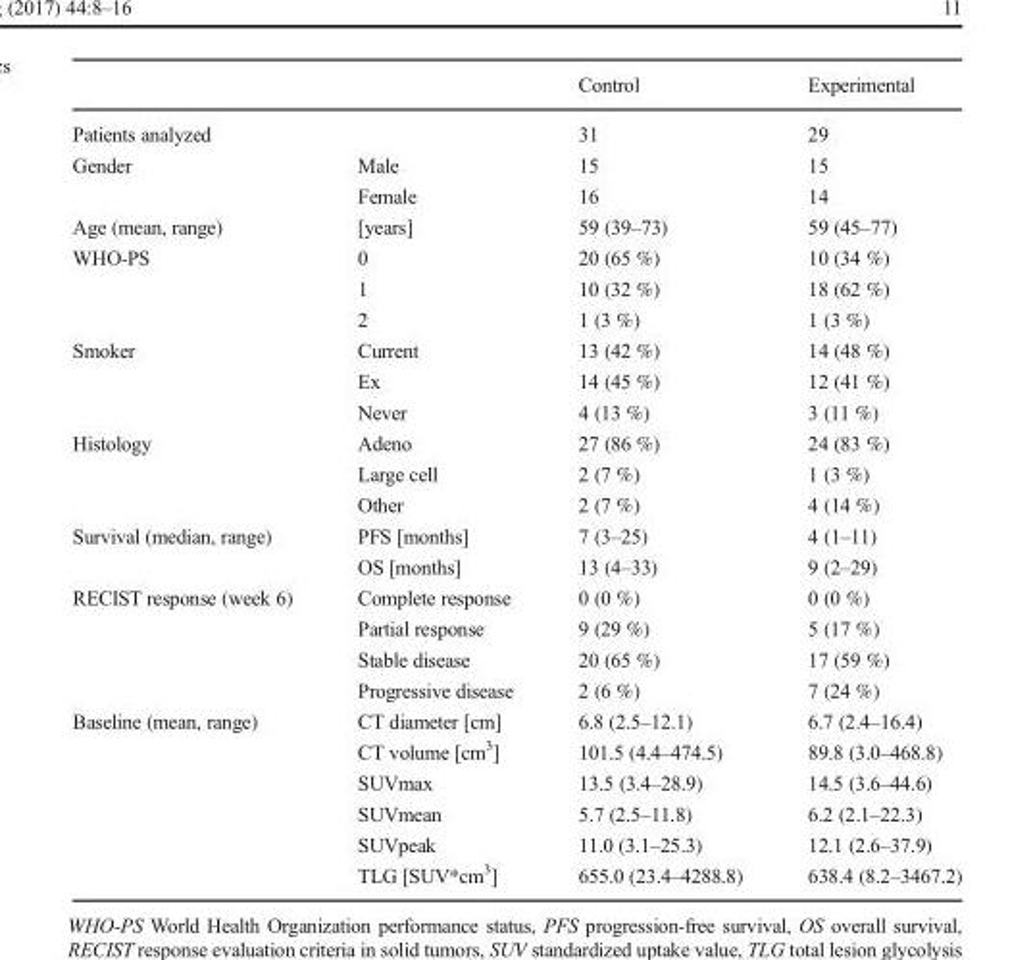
<table><thead><tr><td></td><td></td><td>Control</td><td>Experimental</td></tr></thead><tbody><tr><td>Patients analyzed</td><td></td><td>31</td><td>29</td></tr><tr><td rowspan="2">Gender</td><td>Male</td><td>15</td><td>15</td></tr><tr><td>Female</td><td>16</td><td>14</td></tr><tr><td>Age (mean, range)</td><td>[years]</td><td>59 (39–73)</td><td>59 (45–77)</td></tr><tr><td rowspan="3">WHO-PS</td><td>0</td><td>20 (65 %)</td><td>10 (34 %)</td></tr><tr><td>1</td><td>10 (32 %)</td><td>18 (62 %)</td></tr><tr><td>2</td><td>1 (3 %)</td><td>1 (3 %)</td></tr><tr><td rowspan="3">Smoker</td><td>Current</td><td>13 (42 %)</td><td>14 (48 %)</td></tr><tr><td>Ex</td><td>14 (45 %)</td><td>12 (41 %)</td></tr><tr><td>Never</td><td>4 (13 %)</td><td>3 (11 %)</td></tr><tr><td rowspan="3">Histology</td><td>Adeno</td><td>27 (86 %)</td><td>24 (83 %)</td></tr><tr><td>Large cell</td><td>2 (7 %)</td><td>1 (3 %)</td></tr><tr><td>Other</td><td>2 (7 %)</td><td>4 (14 %)</td></tr><tr><td rowspan="2">Survival (median, range)</td><td>PFS [months]</td><td>7 (3–25)</td><td>4 (1–11)</td></tr><tr><td>OS [months]</td><td>13 (4–33)</td><td>9 (2–29)</td></tr><tr><td rowspan="4">RECIST response (week 6)</td><td>Complete response</td><td>0 (0 %)</td><td>0 (0 %)</td></tr><tr><td>Partial response</td><td>9 (29 %)</td><td>5 (17 %)</td></tr><tr><td>Stable disease</td><td>20 (65 %)</td><td>17 (59 %)</td></tr><tr><td>Progressive disease</td><td>2 (6 %)</td><td>7 (24 %)</td></tr><tr><td rowspan="6">Baseline (mean, range)</td><td>CT diameter [cm]</td><td>6.8 (2.5–12.1)</td><td>6.7 (2.4–16.4)</td></tr><tr><td>CT volume [cm<sup>3</sup>]</td><td>101.5 (4.4–474.5)</td><td>89.8 (3.0–468.8)</td></tr><tr><td>SUVmax</td><td>13.5 (3.4–28.9)</td><td>14.5 (3.6–44.6)</td></tr><tr><td>SUVmean</td><td>5.7 (2.5–11.8)</td><td>6.2 (2.1–22.3)</td></tr><tr><td>SUVpeak</td><td>11.0 (3.1–25.3)</td><td>12.1 (2.6–37.9)</td></tr><tr><td>TLG [SUV*cm<sup>3</sup>]</td><td>655.0 (23.4–4288.8)</td><td>638.4 (8.2–3467.2)</td></tr></tbody></table>